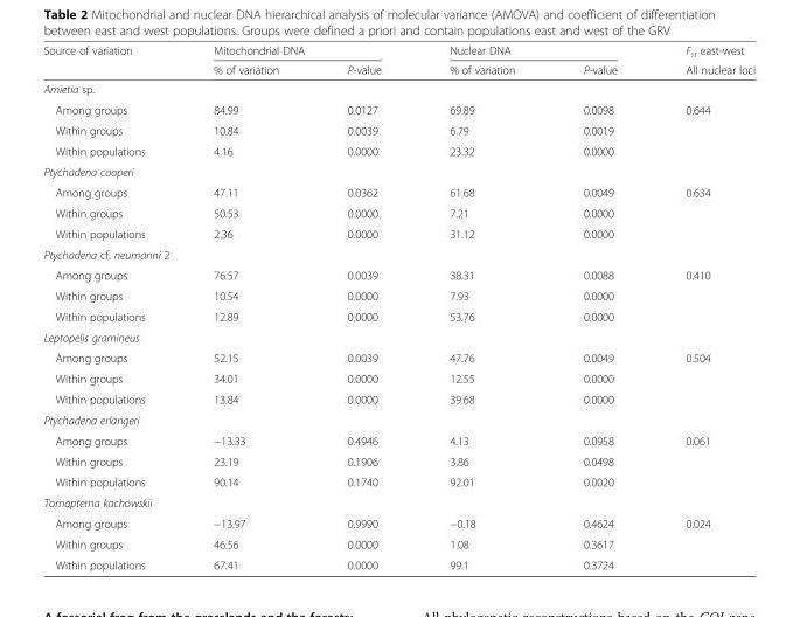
<table><thead><tr><td rowspan="2">Source of variation</td><td colspan="2">Mitochondrial DNA</td><td colspan="2">Nuclear DNA</td><td rowspan="2">F<sub>st</sub> east-west All nuclear loci</td></tr><tr><td>% of variation</td><td>P-value</td><td>% of variation</td><td>P-value</td></tr></thead><tbody><tr><td colspan="6">Amietia sp.</td></tr><tr><td>Among groups</td><td>84.99</td><td>0.0127</td><td>69.89</td><td>0.0098</td><td>0.644</td></tr><tr><td>Within groups</td><td>10.84</td><td>0.0039</td><td>6.79</td><td>0.0019</td><td></td></tr><tr><td>Within populations</td><td>4.16</td><td>0.0000</td><td>23.32</td><td>0.0000</td><td></td></tr><tr><td colspan="6">Ptychadena cooperi</td></tr><tr><td>Among groups</td><td>47.11</td><td>0.0362</td><td>61.68</td><td>0.0049</td><td>0.634</td></tr><tr><td>Within groups</td><td>50.53</td><td>0.0000</td><td>7.21</td><td>0.0000</td><td></td></tr><tr><td>Within populations</td><td>2.36</td><td>0.0000</td><td>31.12</td><td>0.0000</td><td></td></tr><tr><td colspan="6">Ptychadena cf. neumanni 2</td></tr><tr><td>Among groups</td><td>76.57</td><td>0.0039</td><td>38.31</td><td>0.0088</td><td>0.410</td></tr><tr><td>Within groups</td><td>10.54</td><td>0.0000</td><td>7.93</td><td>0.0000</td><td></td></tr><tr><td>Within populations</td><td>12.89</td><td>0.0000</td><td>53.76</td><td>0.0000</td><td></td></tr><tr><td colspan="6">Leptopelis gramineus</td></tr><tr><td>Among groups</td><td>52.15</td><td>0.0039</td><td>47.76</td><td>0.0049</td><td>0.504</td></tr><tr><td>Within groups</td><td>34.01</td><td>0.0000</td><td>12.55</td><td>0.0000</td><td></td></tr><tr><td>Within populations</td><td>13.84</td><td>0.0000</td><td>39.68</td><td>0.0000</td><td></td></tr><tr><td colspan="6">Ptychadena erlangeri</td></tr><tr><td>Among groups</td><td>−13.33</td><td>0.4946</td><td>4.13</td><td>0.0958</td><td>0.061</td></tr><tr><td>Within groups</td><td>23.19</td><td>0.1906</td><td>3.86</td><td>0.0498</td><td></td></tr><tr><td>Within populations</td><td>90.14</td><td>0.1740</td><td>92.01</td><td>0.0020</td><td></td></tr><tr><td colspan="6">Tomopterna kachowskii</td></tr><tr><td>Among groups</td><td>−13.97</td><td>0.9990</td><td>−0.18</td><td>0.4624</td><td>0.024</td></tr><tr><td>Within groups</td><td>46.56</td><td>0.0000</td><td>1.08</td><td>0.3617</td><td></td></tr><tr><td>Within populations</td><td>67.41</td><td>0.0000</td><td>99.1</td><td>0.3724</td><td></td></tr></tbody></table>